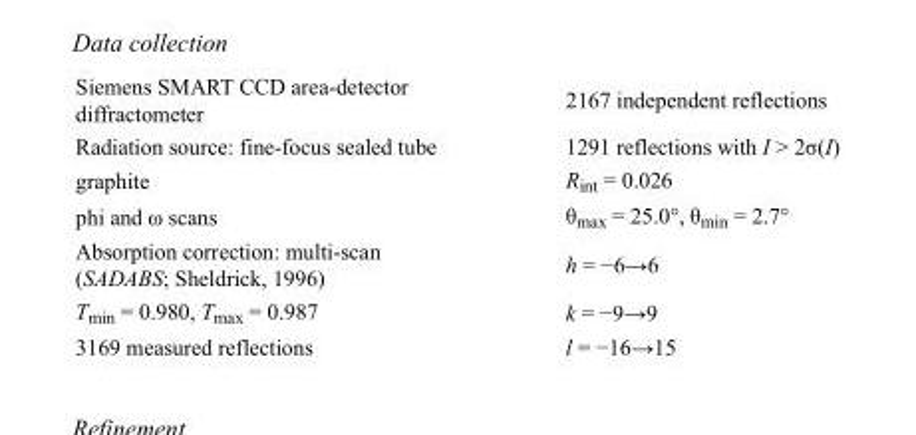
<table><tbody><tr><td>Siemens SMART CCD area-detector diffractometer</td><td>2167 independent reflections</td></tr><tr><td>Radiation source: fine-focus sealed tube</td><td>1291 reflections with I &gt; 2σ(I)</td></tr><tr><td>graphite</td><td>R<sub>int</sub> = 0.026</td></tr><tr><td>phi and ω scans</td><td>θ<sub>max</sub> = 25.0°, θ<sub>min</sub> = 2.7°</td></tr><tr><td>Absorption correction: multi-scan (SADABS; Sheldrick, 1996)</td><td>h = −6→6</td></tr><tr><td>T<sub>min</sub> = 0.980, T<sub>max</sub> = 0.987</td><td>k = −9→9</td></tr><tr><td>3169 measured reflections</td><td>l = −16→15</td></tr></tbody></table>